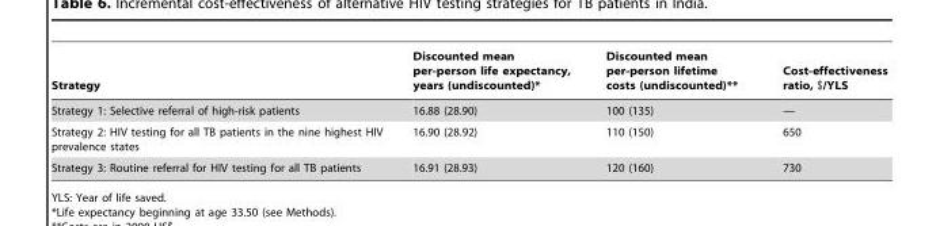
<table><thead><tr><td>Strategy</td><td>Discounted mean per-person life expectancy, years (undiscounted)*</td><td>Discounted mean per-person lifetime costs (undiscounted)**</td><td>Cost-effectiveness ratio, $/YLS</td></tr></thead><tbody><tr><td>Strategy 1: Selective referral of high-risk patients</td><td>16.88 (28.90)</td><td>100 (135)</td><td>—</td></tr><tr><td>Strategy 2: HIV testing for all TB patients in the nine highest HIV prevalence states</td><td>16.90 (28.92)</td><td>110 (150)</td><td>650</td></tr><tr><td>Strategy 3: Routine referral for HIV testing for all TB patients</td><td>16.91 (28.93)</td><td>120 (160)</td><td>730</td></tr></tbody></table>